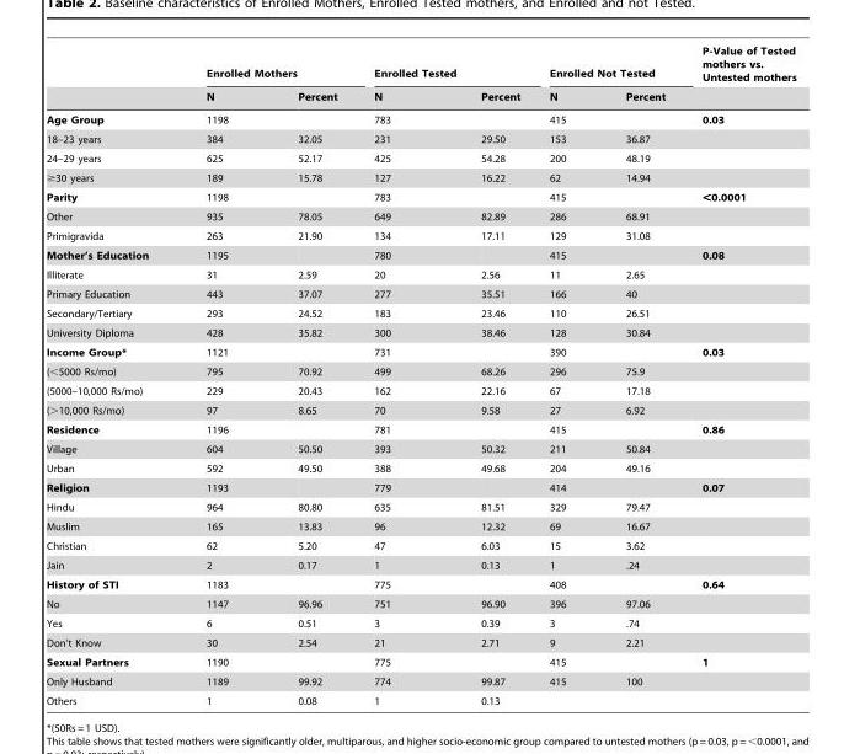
<table><thead><tr><td rowspan="2"></td><td colspan="2">Enrolled Mothers</td><td colspan="2">Enrolled Tested</td><td colspan="2">Enrolled Not Tested</td><td rowspan="2">P-Value of Tested mothers vs. Untested mothers</td></tr><tr><td>N</td><td>Percent</td><td>N</td><td>Percent</td><td>N</td><td>Percent</td></tr></thead><tbody><tr><td>Age Group</td><td>1198</td><td></td><td>783</td><td></td><td>415</td><td></td><td>0.03</td></tr><tr><td>18–23 years</td><td>384</td><td>32.05</td><td>231</td><td>29.50</td><td>153</td><td>36.87</td><td></td></tr><tr><td>24–29 years</td><td>625</td><td>52.17</td><td>425</td><td>54.28</td><td>200</td><td>48.19</td><td></td></tr><tr><td>≥30 years</td><td>189</td><td>15.78</td><td>127</td><td>16.22</td><td>62</td><td>14.94</td><td></td></tr><tr><td>Parity</td><td>1198</td><td></td><td>783</td><td></td><td>415</td><td></td><td>&lt;0.0001</td></tr><tr><td>Other</td><td>935</td><td>78.05</td><td>649</td><td>82.89</td><td>286</td><td>68.91</td><td></td></tr><tr><td>Primigravida</td><td>263</td><td>21.90</td><td>134</td><td>17.11</td><td>129</td><td>31.08</td><td></td></tr><tr><td>Mother’s Education</td><td>1195</td><td></td><td>780</td><td></td><td>415</td><td></td><td>0.08</td></tr><tr><td>Illiterate</td><td>31</td><td>2.59</td><td>20</td><td>2.56</td><td>11</td><td>2.65</td><td></td></tr><tr><td>Primary Education</td><td>443</td><td>37.07</td><td>277</td><td>35.51</td><td>166</td><td>40</td><td></td></tr><tr><td>Secondary/Tertiary</td><td>293</td><td>24.52</td><td>183</td><td>23.46</td><td>110</td><td>26.51</td><td></td></tr><tr><td>University Diploma</td><td>428</td><td>35.82</td><td>300</td><td>38.46</td><td>128</td><td>30.84</td><td></td></tr><tr><td>Income Group*</td><td>1121</td><td></td><td>731</td><td></td><td>390</td><td></td><td>0.03</td></tr><tr><td>(&lt;5000 Rs/mo)</td><td>795</td><td>70.92</td><td>499</td><td>68.26</td><td>296</td><td>75.9</td><td></td></tr><tr><td>(5000–10,000 Rs/mo)</td><td>229</td><td>20.43</td><td>162</td><td>22.16</td><td>67</td><td>17.18</td><td></td></tr><tr><td>(&gt;10,000 Rs/mo)</td><td>97</td><td>8.65</td><td>70</td><td>9.58</td><td>27</td><td>6.92</td><td></td></tr><tr><td>Residence</td><td>1196</td><td></td><td>781</td><td></td><td>415</td><td></td><td>0.86</td></tr><tr><td>Village</td><td>604</td><td>50.50</td><td>393</td><td>50.32</td><td>211</td><td>50.84</td><td></td></tr><tr><td>Urban</td><td>592</td><td>49.50</td><td>388</td><td>49.68</td><td>204</td><td>49.16</td><td></td></tr><tr><td>Religion</td><td>1193</td><td></td><td>779</td><td></td><td>414</td><td></td><td>0.07</td></tr><tr><td>Hindu</td><td>964</td><td>80.80</td><td>635</td><td>81.51</td><td>329</td><td>79.47</td><td></td></tr><tr><td>Muslim</td><td>165</td><td>13.83</td><td>96</td><td>12.32</td><td>69</td><td>16.67</td><td></td></tr><tr><td>Christian</td><td>62</td><td>5.20</td><td>47</td><td>6.03</td><td>15</td><td>3.62</td><td></td></tr><tr><td>Jain</td><td>2</td><td>0.17</td><td>1</td><td>0.13</td><td>1</td><td>.24</td><td></td></tr><tr><td>History of STI</td><td>1183</td><td></td><td>775</td><td></td><td>408</td><td></td><td>0.64</td></tr><tr><td>No</td><td>1147</td><td>96.96</td><td>751</td><td>96.90</td><td>396</td><td>97.06</td><td></td></tr><tr><td>Yes</td><td>6</td><td>0.51</td><td>3</td><td>0.39</td><td>3</td><td>.74</td><td></td></tr><tr><td>Don’t Know</td><td>30</td><td>2.54</td><td>21</td><td>2.71</td><td>9</td><td>2.21</td><td></td></tr><tr><td>Sexual Partners</td><td>1190</td><td></td><td>775</td><td></td><td>415</td><td></td><td>1</td></tr><tr><td>Only Husband</td><td>1189</td><td>99.92</td><td>774</td><td>99.87</td><td>415</td><td>100</td><td></td></tr><tr><td>Others</td><td>1</td><td>0.08</td><td>1</td><td>0.13</td><td></td><td></td><td></td></tr></tbody></table>